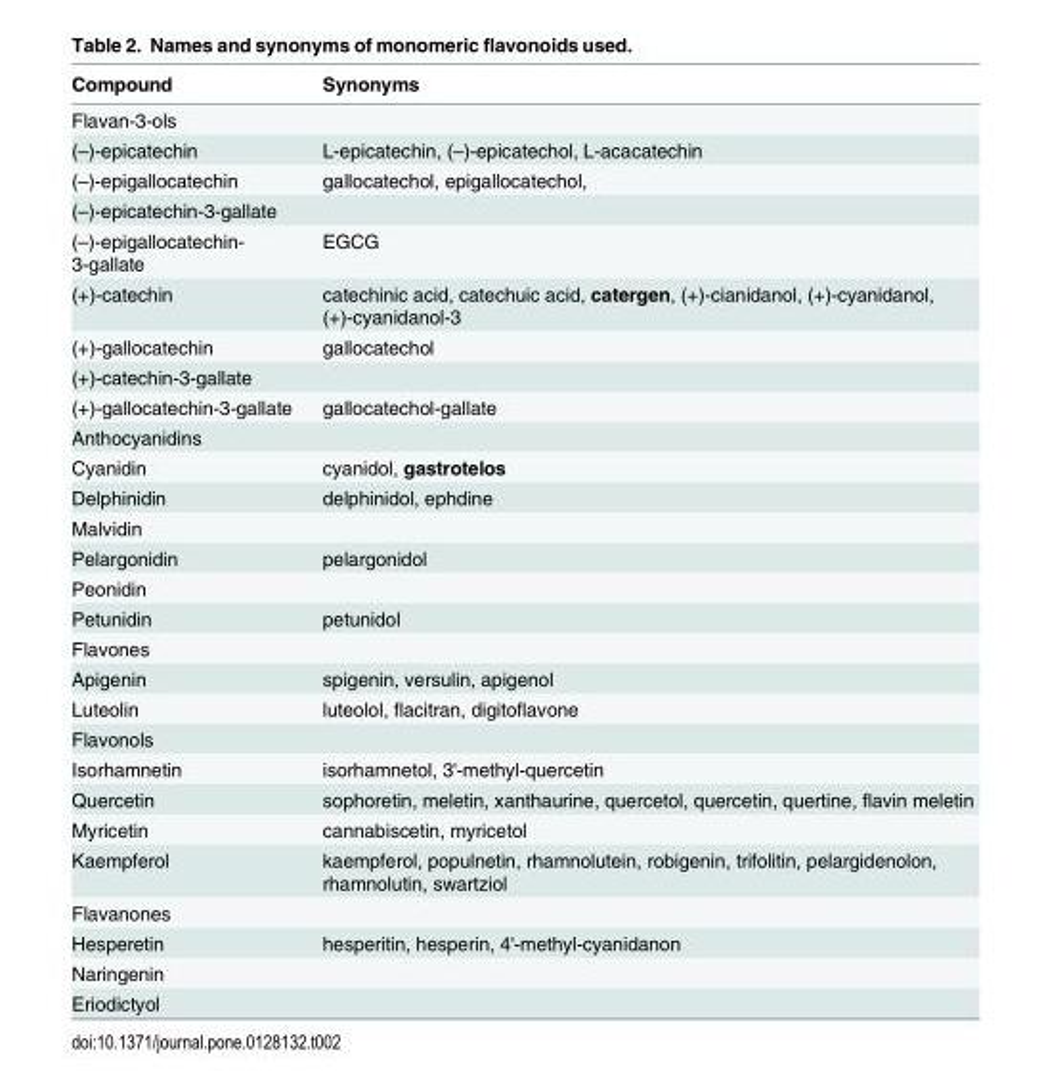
<table><thead><tr><td>Compound</td><td>Synonyms</td></tr></thead><tbody><tr><td colspan="2">Flavan-3-ols</td></tr><tr><td>(–)-epicatechin</td><td>L-epicatechin, (–)-epicatechol, L-acacatechin</td></tr><tr><td>(–)-epigallocatechin</td><td>gallocatechol, epigallocatechol,</td></tr><tr><td colspan="2">(–)-epicatechin-3-gallate</td></tr><tr><td>(–)-epigallocatechin- 3-gallate</td><td>EGCG</td></tr><tr><td>(+)-catechin</td><td>catechinic acid, catechuic acid, catergen, (+)-cianidanol, (+)-cyanidanol, (+)-cyanidanol-3</td></tr><tr><td>(+)-gallocatechin</td><td>gallocatechol</td></tr><tr><td colspan="2">(+)-catechin-3-gallate</td></tr><tr><td>(+)-gallocatechin-3-gallate</td><td>gallocatechol-gallate</td></tr><tr><td colspan="2">Anthocyanidins</td></tr><tr><td>Cyanidin</td><td>cyanidol, gastrotelos</td></tr><tr><td>Delphinidin</td><td>delphinidol, ephdine</td></tr><tr><td colspan="2">Malvidin</td></tr><tr><td>Pelargonidin</td><td>pelargonidol</td></tr><tr><td colspan="2">Peonidin</td></tr><tr><td>Petunidin</td><td>petunidol</td></tr><tr><td colspan="2">Flavones</td></tr><tr><td>Apigenin</td><td>spigenin, versulin, apigenol</td></tr><tr><td>Luteolin</td><td>luteolol, flacitran, digitoflavone</td></tr><tr><td colspan="2">Flavonols</td></tr><tr><td>Isorhamnetin</td><td>isorhamnetol, 3&#x27;-methyl-quercetin</td></tr><tr><td>Quercetin</td><td>sophoretin, meletin, xanthaurine, quercetol, quercetin, quertine, flavin meletin</td></tr><tr><td>Myricetin</td><td>cannabiscetin, myricetol</td></tr><tr><td>Kaempferol</td><td>kaempferol, populnetin, rhamnolutein, robigenin, trifolitin, pelargidenolon, rhamnolutin, swartziol</td></tr><tr><td colspan="2">Flavanones</td></tr><tr><td>Hesperetin</td><td>hesperitin, hesperin, 4&#x27;-methyl-cyanidanon</td></tr><tr><td colspan="2">Naringenin</td></tr><tr><td>Eriodictyol</td><td></td></tr></tbody></table>